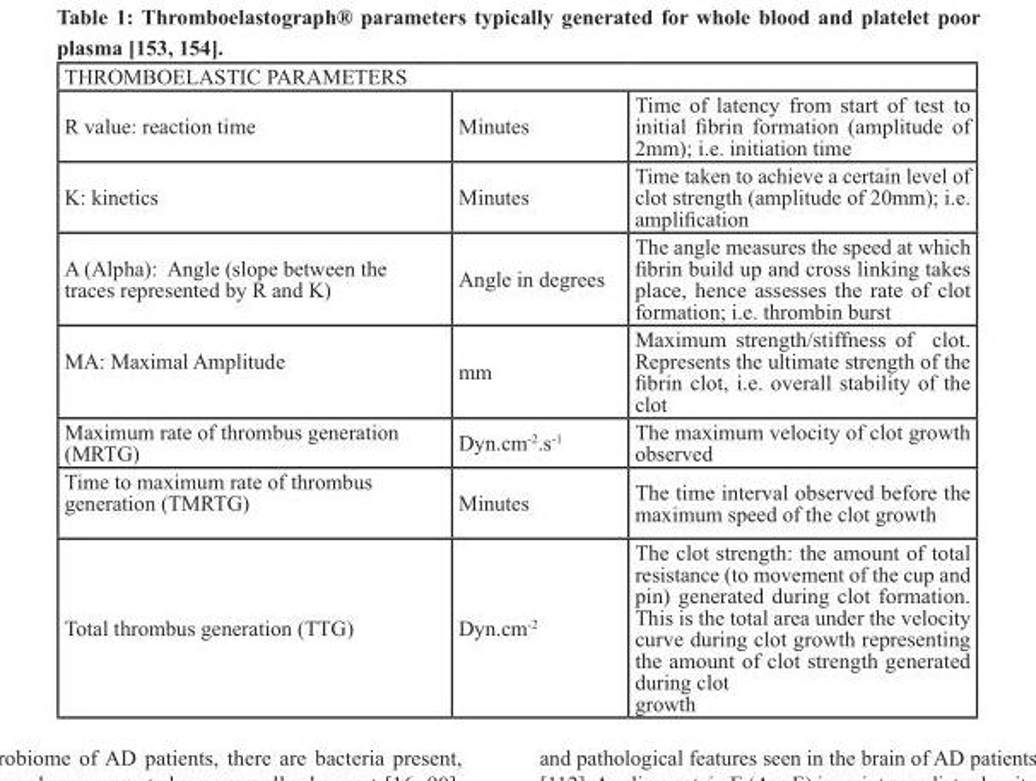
<table><thead><tr><td colspan="3">THROMBOELASTIC PARAMETERS</td></tr><tr><td>R value: reaction time</td><td>Minutes</td><td>Time of latency from start of test to initial fibrin formation (amplitude of 2mm); i.e. initiation time</td></tr></thead><tbody><tr><td>K: kinetics</td><td>Minutes</td><td>Time taken to achieve a certain level of clot strength (amplitude of 20mm); i.e. amplification</td></tr><tr><td>Α (Alpha): Angle (slope between the traces represented by R and K)</td><td>Angle in degrees</td><td>The angle measures the speed at which fibrin build up and cross linking takes place, hence assesses the rate of clot formation; i.e. thrombin burst</td></tr><tr><td>MA: Maximal Amplitude</td><td>mm</td><td>Maximum strength/stiffness of clot. Represents the ultimate strength of the fibrin clot, i.e. overall stability of the clot</td></tr><tr><td>Maximum rate of thrombus generation (MRTG)</td><td>Dyn.cm<sup>-2</sup>.s<sup>-1</sup></td><td>The maximum velocity of clot growth observed</td></tr><tr><td>Time to maximum rate of thrombus generation (TMRTG)</td><td>Minutes</td><td>The time interval observed before the maximum speed of the clot growth</td></tr><tr><td>Total thrombus generation (TTG)</td><td>Dyn.cm<sup>-2</sup></td><td>The clot strength: the amount of total resistance (to movement of the cup and pin) generated during clot formation. This is the total area under the velocity curve during clot growth representing the amount of clot strength generated during clot growth</td></tr></tbody></table>